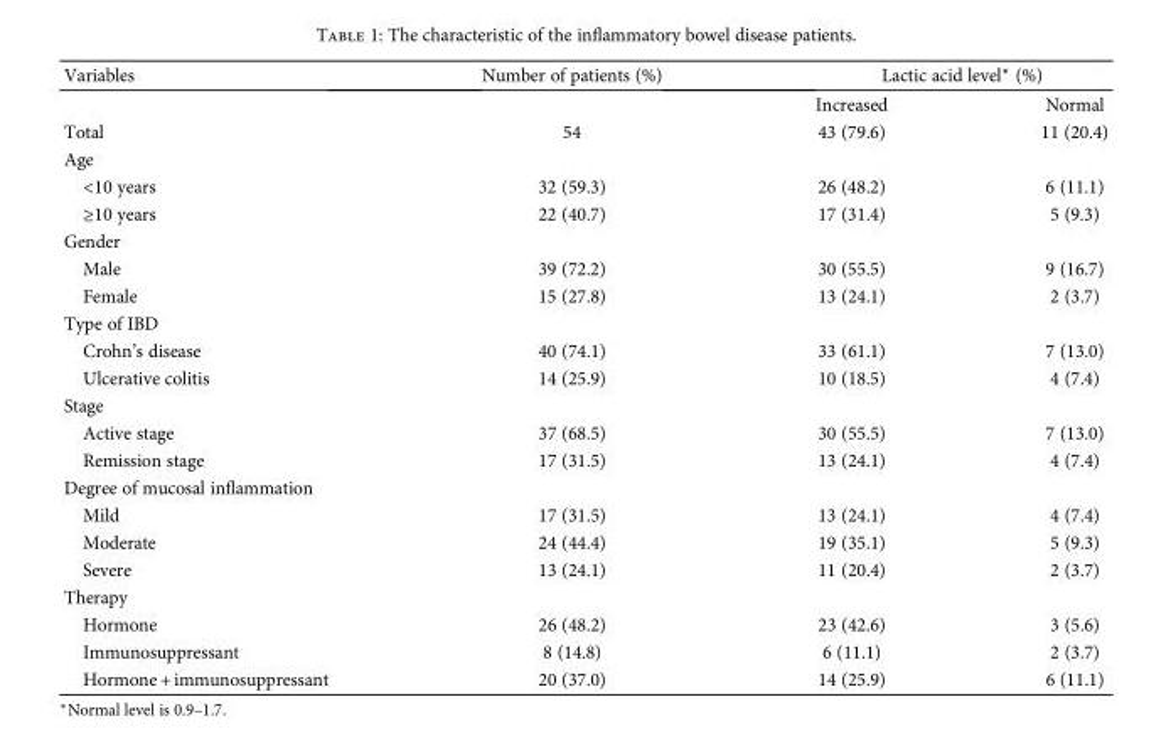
<table><thead><tr><td rowspan="2">Variables</td><td rowspan="2">Number of patients (%)</td><td colspan="2">Lactic acid level∗ (%)</td></tr><tr><td>Increased</td><td>Normal</td></tr></thead><tbody><tr><td>Total</td><td>54</td><td>43 (79.6)</td><td>11 (20.4)</td></tr><tr><td colspan="4">Age</td></tr><tr><td>&lt;10 years</td><td>32 (59.3)</td><td>26 (48.2)</td><td>6 (11.1)</td></tr><tr><td>≥10 years</td><td>22 (40.7)</td><td>17 (31.4)</td><td>5 (9.3)</td></tr><tr><td colspan="4">Gender</td></tr><tr><td>Male</td><td>39 (72.2)</td><td>30 (55.5)</td><td>9 (16.7)</td></tr><tr><td>Female</td><td>15 (27.8)</td><td>13 (24.1)</td><td>2 (3.7)</td></tr><tr><td colspan="4">Type of IBD</td></tr><tr><td>Crohn’s disease</td><td>40 (74.1)</td><td>33 (61.1)</td><td>7 (13.0)</td></tr><tr><td>Ulcerative colitis</td><td>14 (25.9)</td><td>10 (18.5)</td><td>4 (7.4)</td></tr><tr><td colspan="4">Stage</td></tr><tr><td>Active stage</td><td>37 (68.5)</td><td>30 (55.5)</td><td>7 (13.0)</td></tr><tr><td>Remission stage</td><td>17 (31.5)</td><td>13 (24.1)</td><td>4 (7.4)</td></tr><tr><td colspan="4">Degree of mucosal inflammation</td></tr><tr><td>Mild</td><td>17 (31.5)</td><td>13 (24.1)</td><td>4 (7.4)</td></tr><tr><td>Moderate</td><td>24 (44.4)</td><td>19 (35.1)</td><td>5 (9.3)</td></tr><tr><td>Severe</td><td>13 (24.1)</td><td>11 (20.4)</td><td>2 (3.7)</td></tr><tr><td colspan="4">Therapy</td></tr><tr><td>Hormone</td><td>26 (48.2)</td><td>23 (42.6)</td><td>3 (5.6)</td></tr><tr><td>Immunosuppressant</td><td>8 (14.8)</td><td>6 (11.1)</td><td>2 (3.7)</td></tr><tr><td>Hormone + immunosuppressant</td><td>20 (37.0)</td><td>14 (25.9)</td><td>6 (11.1)</td></tr></tbody></table>